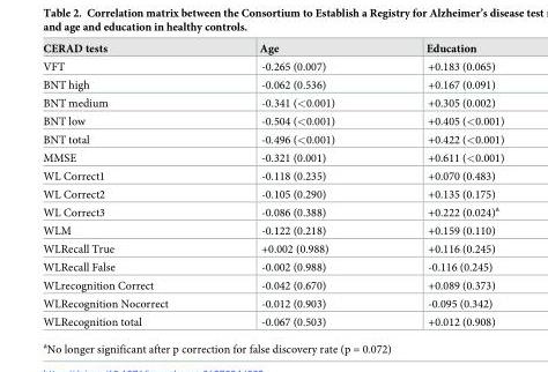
<table><thead><tr><td>CERAD tests</td><td>Age</td><td>Education</td></tr></thead><tbody><tr><td>VFT</td><td>-0.265 (0.007)</td><td>+0.183 (0.065)</td></tr><tr><td>BNT high</td><td>-0.062 (0.536)</td><td>+0.167 (0.091)</td></tr><tr><td>BNT medium</td><td>-0.341 (&lt;0.001)</td><td>+0.305 (0.002)</td></tr><tr><td>BNT low</td><td>-0.504 (&lt;0.001)</td><td>+0.405 (&lt;0.001)</td></tr><tr><td>BNT total</td><td>-0.496 (&lt;0.001)</td><td>+0.422 (&lt;0.001)</td></tr><tr><td>MMSE</td><td>-0.321 (0.001)</td><td>+0.611 (&lt;0.001)</td></tr><tr><td>WL Correct1</td><td>-0.118 (0.235)</td><td>+0.070 (0.483)</td></tr><tr><td>WL Correct2</td><td>-0.105 (0.290)</td><td>+0.135 (0.175)</td></tr><tr><td>WL Correct3</td><td>-0.086 (0.388)</td><td>+0.222 (0.024)<sup>a</sup></td></tr><tr><td>WLM</td><td>-0.122 (0.218)</td><td>+0.159 (0.110)</td></tr><tr><td>WLRecall True</td><td>+0.002 (0.988)</td><td>+0.116 (0.245)</td></tr><tr><td>WLRecall False</td><td>-0.002 (0.988)</td><td>-0.116 (0.245)</td></tr><tr><td>WLrecognition Correct</td><td>-0.042 (0.670)</td><td>+0.089 (0.373)</td></tr><tr><td>WLRecognition Nocorrect</td><td>-0.012 (0.903)</td><td>-0.095 (0.342)</td></tr><tr><td>WLRecognition total</td><td>-0.067 (0.503)</td><td>+0.012 (0.908)</td></tr></tbody></table>